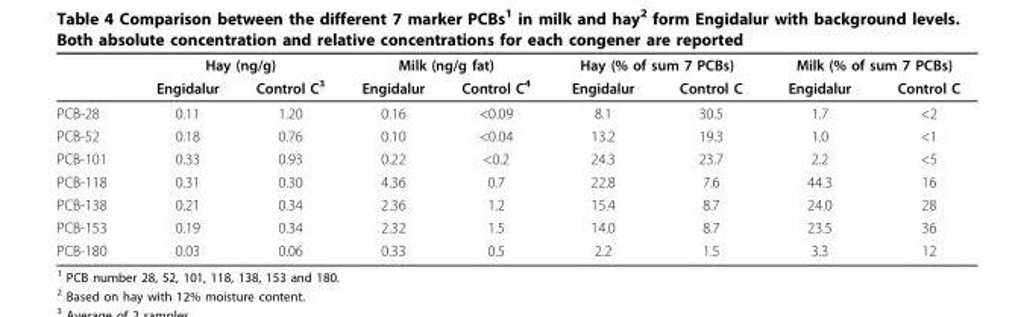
<table><thead><tr><td rowspan="2"></td><td colspan="2">Hay (ng/g)</td><td colspan="2">Milk (ng/g fat)</td><td colspan="2">Hay (% of sum 7 PCBs)</td><td colspan="2">Milk (% of sum 7 PCBs)</td></tr><tr><td>Engidalur</td><td>Control C<sup>3</sup></td><td>Engidalur</td><td>Control C<sup>4</sup></td><td>Engidalur</td><td>Control C</td><td>Engidalur</td><td>Control C</td></tr></thead><tbody><tr><td>PCB-28</td><td>0.11</td><td>1.20</td><td>0.16</td><td>&lt;0.09</td><td>8.1</td><td>30.5</td><td>1.7</td><td>&lt;2</td></tr><tr><td>PCB-52</td><td>0.18</td><td>0.76</td><td>0.10</td><td>&lt;0.04</td><td>13.2</td><td>19.3</td><td>1.0</td><td>&lt;1</td></tr><tr><td>PCB-101</td><td>0.33</td><td>0.93</td><td>0.22</td><td>&lt;0.2</td><td>24.3</td><td>23.7</td><td>2.2</td><td>&lt;5</td></tr><tr><td>PCB-118</td><td>0.31</td><td>0.30</td><td>4.36</td><td>0.7</td><td>22.8</td><td>7.6</td><td>44.3</td><td>16</td></tr><tr><td>PCB-138</td><td>0.21</td><td>0.34</td><td>2.36</td><td>1.2</td><td>15.4</td><td>8.7</td><td>24.0</td><td>28</td></tr><tr><td>PCB-153</td><td>0.19</td><td>0.34</td><td>2.32</td><td>1.5</td><td>14.0</td><td>8.7</td><td>23.5</td><td>36</td></tr><tr><td>PCB-180</td><td>0.03</td><td>0.06</td><td>0.33</td><td>0.5</td><td>2.2</td><td>1.5</td><td>3.3</td><td>12</td></tr></tbody></table>